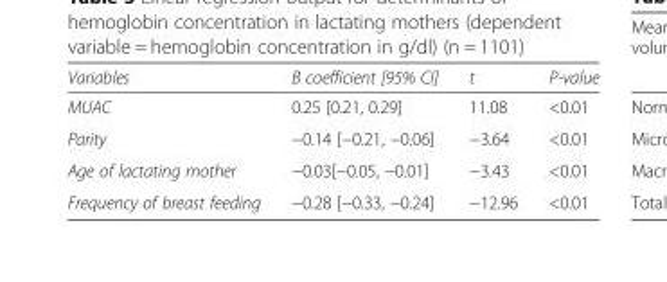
<table><thead><tr><td>Variables</td><td>B coefficient [95% CI]</td><td>t</td><td>P-value</td></tr></thead><tbody><tr><td>MUAC</td><td>0.25 [0.21, 0.29]</td><td>11.08</td><td>&lt;0.01</td></tr><tr><td>Parity</td><td>−0.14 [−0.21, −0.06]</td><td>−3.64</td><td>&lt;0.01</td></tr><tr><td>Age of lactating mother</td><td>−0.03[−0.05, −0.01]</td><td>−3.43</td><td>&lt;0.01</td></tr><tr><td>Frequency of breast feeding</td><td>−0.28 [−0.33, −0.24]</td><td>−12.96</td><td>&lt;0.01</td></tr></tbody></table>